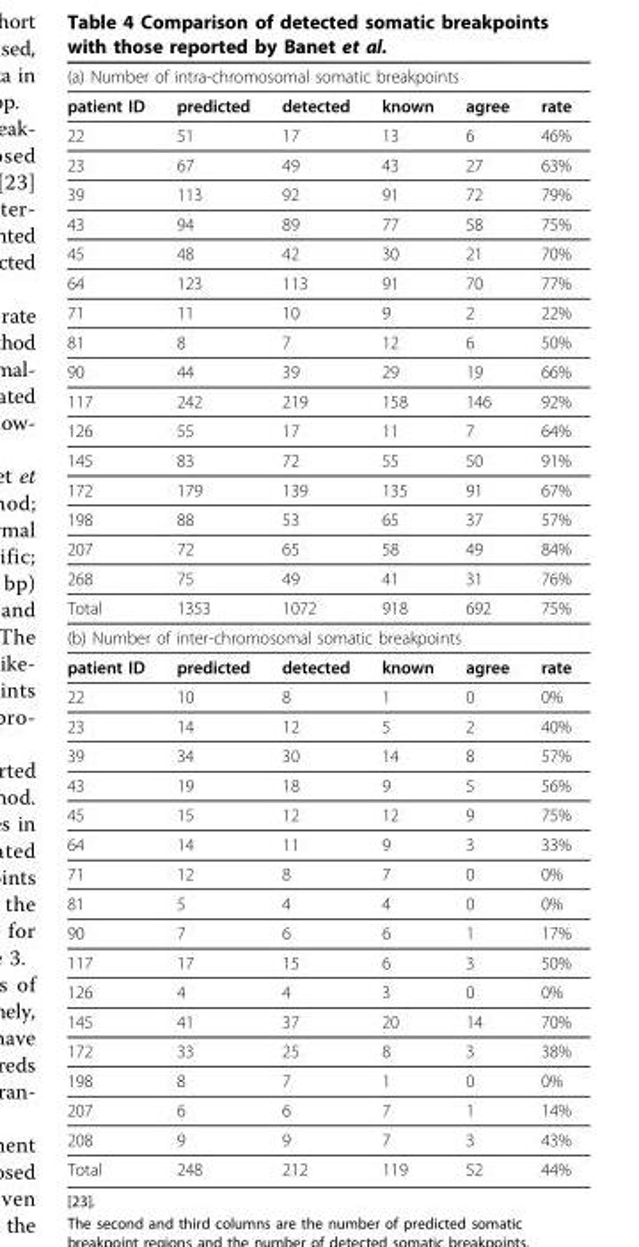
<table><thead><tr><td colspan="6">(a) Number of intra-chromosomal somatic breakpoints</td></tr><tr><td>patient ID</td><td>predicted</td><td>detected</td><td>known</td><td>agree</td><td>rate</td></tr></thead><tbody><tr><td>22</td><td>51</td><td>17</td><td>13</td><td>6</td><td>46%</td></tr><tr><td>23</td><td>67</td><td>49</td><td>43</td><td>27</td><td>63%</td></tr><tr><td>39</td><td>113</td><td>92</td><td>91</td><td>72</td><td>79%</td></tr><tr><td>43</td><td>94</td><td>89</td><td>77</td><td>58</td><td>75%</td></tr><tr><td>45</td><td>48</td><td>42</td><td>30</td><td>21</td><td>70%</td></tr><tr><td>64</td><td>123</td><td>113</td><td>91</td><td>70</td><td>77%</td></tr><tr><td>71</td><td>11</td><td>10</td><td>9</td><td>2</td><td>22%</td></tr><tr><td>81</td><td>8</td><td>7</td><td>12</td><td>6</td><td>50%</td></tr><tr><td>90</td><td>44</td><td>39</td><td>29</td><td>19</td><td>66%</td></tr><tr><td>117</td><td>242</td><td>219</td><td>158</td><td>146</td><td>92%</td></tr><tr><td>126</td><td>55</td><td>17</td><td>11</td><td>7</td><td>64%</td></tr><tr><td>145</td><td>83</td><td>72</td><td>55</td><td>50</td><td>91%</td></tr><tr><td>172</td><td>179</td><td>139</td><td>135</td><td>91</td><td>67%</td></tr><tr><td>198</td><td>88</td><td>53</td><td>65</td><td>37</td><td>57%</td></tr><tr><td>207</td><td>72</td><td>65</td><td>58</td><td>49</td><td>84%</td></tr><tr><td>268</td><td>75</td><td>49</td><td>41</td><td>31</td><td>76%</td></tr><tr><td>Total</td><td>1353</td><td>1072</td><td>918</td><td>692</td><td>75%</td></tr><tr><td colspan="6">(b) Number of inter-chromosomal somatic breakpoints</td></tr><tr><td>patient ID</td><td>predicted</td><td>detected</td><td>known</td><td>agree</td><td>rate</td></tr><tr><td>22</td><td>10</td><td>8</td><td>1</td><td>0</td><td>0%</td></tr><tr><td>23</td><td>14</td><td>12</td><td>5</td><td>2</td><td>40%</td></tr><tr><td>39</td><td>34</td><td>30</td><td>14</td><td>8</td><td>57%</td></tr><tr><td>43</td><td>19</td><td>18</td><td>9</td><td>5</td><td>56%</td></tr><tr><td>45</td><td>15</td><td>12</td><td>12</td><td>9</td><td>75%</td></tr><tr><td>64</td><td>14</td><td>11</td><td>9</td><td>3</td><td>33%</td></tr><tr><td>71</td><td>12</td><td>8</td><td>7</td><td>0</td><td>0%</td></tr><tr><td>81</td><td>5</td><td>4</td><td>4</td><td>0</td><td>0%</td></tr><tr><td>90</td><td>7</td><td>6</td><td>6</td><td>1</td><td>17%</td></tr><tr><td>117</td><td>17</td><td>15</td><td>6</td><td>3</td><td>50%</td></tr><tr><td>126</td><td>4</td><td>4</td><td>3</td><td>0</td><td>0%</td></tr><tr><td>145</td><td>41</td><td>37</td><td>20</td><td>14</td><td>70%</td></tr><tr><td>172</td><td>33</td><td>25</td><td>8</td><td>3</td><td>38%</td></tr><tr><td>198</td><td>8</td><td>7</td><td>1</td><td>0</td><td>0%</td></tr><tr><td>207</td><td>6</td><td>6</td><td>7</td><td>1</td><td>14%</td></tr><tr><td>208</td><td>9</td><td>9</td><td>7</td><td>3</td><td>43%</td></tr><tr><td>Total</td><td>248</td><td>212</td><td>119</td><td>52</td><td>44%</td></tr></tbody></table>